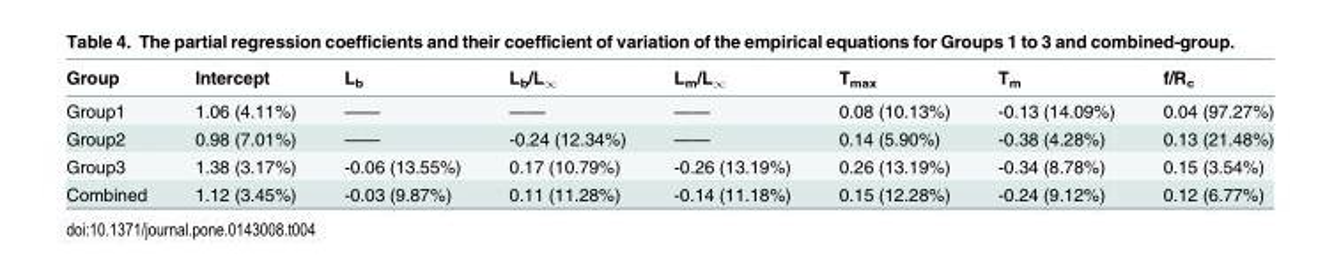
<table><thead><tr><td>Group</td><td>Intercept</td><td>L<sub>b</sub></td><td>L<sub>b</sub>/L<sub>∞</sub></td><td>L<sub>m</sub>/L<sub>∞</sub></td><td>T<sub>max</sub></td><td>T<sub>m</sub></td><td>f/R<sub>c</sub></td></tr></thead><tbody><tr><td>Group1</td><td>1.06 (4.11%)</td><td>——</td><td>——</td><td>——</td><td>0.08 (10.13%)</td><td>-0.13 (14.09%)</td><td>0.04 (97.27%)</td></tr><tr><td>Group2</td><td>0.98 (7.01%)</td><td>——</td><td>-0.24 (12.34%)</td><td>——</td><td>0.14 (5.90%)</td><td>-0.38 (4.28%)</td><td>0.13 (21.48%)</td></tr><tr><td>Group3</td><td>1.38 (3.17%)</td><td>-0.06 (13.55%)</td><td>0.17 (10.79%)</td><td>-0.26 (13.19%)</td><td>0.26 (13.19%)</td><td>-0.34 (8.78%)</td><td>0.15 (3.54%)</td></tr><tr><td>Combined</td><td>1.12 (3.45%)</td><td>-0.03 (9.87%)</td><td>0.11 (11.28%)</td><td>-0.14 (11.18%)</td><td>0.15 (12.28%)</td><td>-0.24 (9.12%)</td><td>0.12 (6.77%)</td></tr></tbody></table>